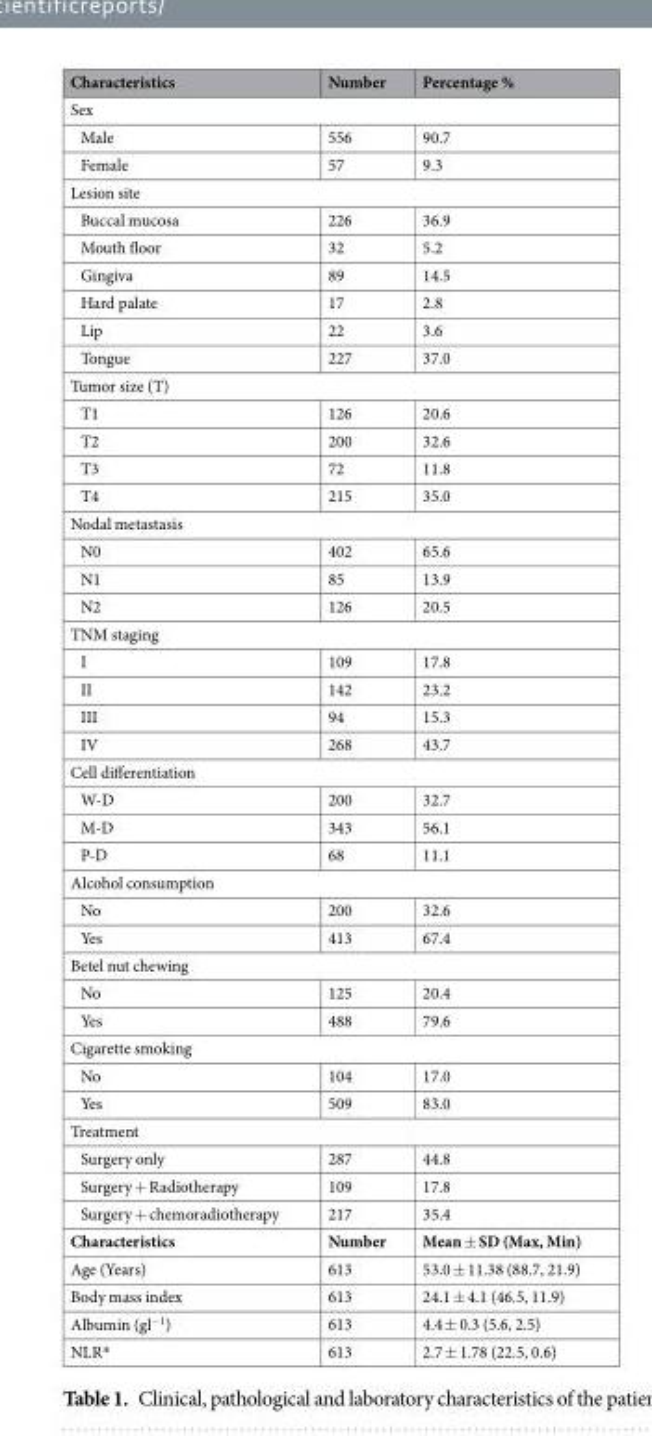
<table><thead><tr><td>Characteristics</td><td>Number</td><td>Percentage %</td></tr></thead><tbody><tr><td colspan="3">Sex</td></tr><tr><td>Male</td><td>556</td><td>90.7</td></tr><tr><td>Female</td><td>57</td><td>9.3</td></tr><tr><td colspan="3">Lesion site</td></tr><tr><td>Buccal mucosa</td><td>226</td><td>36.9</td></tr><tr><td>Mouth floor</td><td>32</td><td>5.2</td></tr><tr><td>Gingiva</td><td>89</td><td>14.5</td></tr><tr><td>Hard palate</td><td>17</td><td>2.8</td></tr><tr><td>Lip</td><td>22</td><td>3.6</td></tr><tr><td>Tongue</td><td>227</td><td>37.0</td></tr><tr><td colspan="3">Tumor size (T)</td></tr><tr><td>T1</td><td>126</td><td>20.6</td></tr><tr><td>T2</td><td>200</td><td>32.6</td></tr><tr><td>T3</td><td>72</td><td>11.8</td></tr><tr><td>T4</td><td>215</td><td>35.0</td></tr><tr><td colspan="3">Nodal metastasis</td></tr><tr><td>N0</td><td>402</td><td>65.6</td></tr><tr><td>N1</td><td>85</td><td>13.9</td></tr><tr><td>N2</td><td>126</td><td>20.5</td></tr><tr><td colspan="3">TNM staging</td></tr><tr><td>I</td><td>109</td><td>17.8</td></tr><tr><td>II</td><td>142</td><td>23.2</td></tr><tr><td>III</td><td>94</td><td>15.3</td></tr><tr><td>IV</td><td>268</td><td>43.7</td></tr><tr><td colspan="3">Cell differentiation</td></tr><tr><td>W-D</td><td>200</td><td>32.7</td></tr><tr><td>M-D</td><td>343</td><td>56.1</td></tr><tr><td>P-D</td><td>68</td><td>11.1</td></tr><tr><td colspan="3">Alcohol consumption</td></tr><tr><td>No</td><td>200</td><td>32.6</td></tr><tr><td>Yes</td><td>413</td><td>67.4</td></tr><tr><td colspan="3">Betel nut chewing</td></tr><tr><td>No</td><td>125</td><td>20.4</td></tr><tr><td>Yes</td><td>488</td><td>79.6</td></tr><tr><td colspan="3">Cigarette smoking</td></tr><tr><td>No</td><td>104</td><td>17.0</td></tr><tr><td>Yes</td><td>509</td><td>83.0</td></tr><tr><td colspan="3">Treatment</td></tr><tr><td>Surgery only</td><td>287</td><td>44.8</td></tr><tr><td>Surgery + Radiotherapy</td><td>109</td><td>17.8</td></tr><tr><td>Surgery + chemoradiotherapy</td><td>217</td><td>35.4</td></tr><tr><td>Characteristics</td><td>Number</td><td>Mean ± SD (Max, Min)</td></tr><tr><td>Age (Years)</td><td>613</td><td>53.0 ± 11.38 (88.7, 21.9)</td></tr><tr><td>Body mass index</td><td>613</td><td>24.1 ± 4.1 (46.5, 11.9)</td></tr><tr><td>Albumin (gl<sup>−1</sup>)</td><td>613</td><td>4.4 ± 0.3 (5.6, 2.5)</td></tr><tr><td>NLR*</td><td>613</td><td>2.7 ± 1.78 (22.5, 0.6)</td></tr></tbody></table>